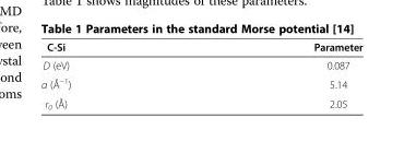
<table><thead><tr><td>C-Si</td><td>Parameter</td></tr></thead><tbody><tr><td>D (eV)</td><td>0.087</td></tr><tr><td>α (Å<sup>−1</sup>)</td><td>5.14</td></tr><tr><td>r<sub>0</sub> (Å)</td><td>2.05</td></tr></tbody></table>